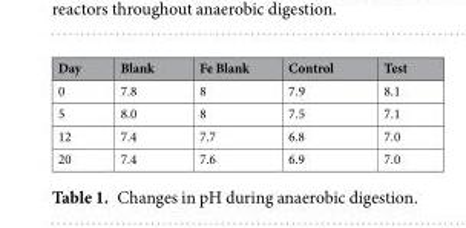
<table><thead><tr><td>Day</td><td>Blank</td><td>Fe Blank</td><td>Control</td><td>Test</td></tr></thead><tbody><tr><td>0</td><td>7.8</td><td>8</td><td>7.9</td><td>8.1</td></tr><tr><td>5</td><td>8.0</td><td>8</td><td>7.5</td><td>7.1</td></tr><tr><td>12</td><td>7.4</td><td>7.7</td><td>6.8</td><td>7.0</td></tr><tr><td>20</td><td>7.4</td><td>7.6</td><td>6.9</td><td>7.0</td></tr></tbody></table>